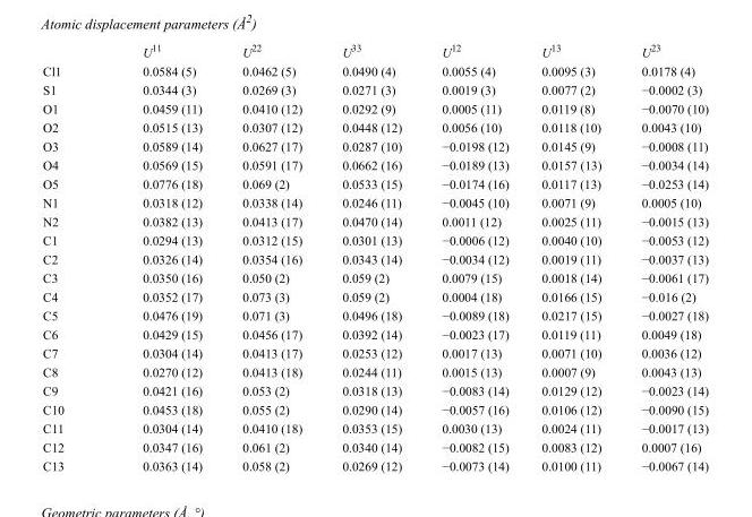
<table><thead><tr><td></td><td>U<sup>11</sup></td><td>U<sup>22</sup></td><td>U<sup>33</sup></td><td>U<sup>12</sup></td><td>U<sup>13</sup></td><td>U<sup>23</sup></td></tr></thead><tbody><tr><td>Cl1</td><td>0.0584 (5)</td><td>0.0462 (5)</td><td>0.0490 (4)</td><td>0.0055 (4)</td><td>0.0095 (3)</td><td>0.0178 (4)</td></tr><tr><td>S1</td><td>0.0344 (3)</td><td>0.0269 (3)</td><td>0.0271 (3)</td><td>0.0019 (3)</td><td>0.0077 (2)</td><td>−0.0002 (3)</td></tr><tr><td>O1</td><td>0.0459 (11)</td><td>0.0410 (12)</td><td>0.0292 (9)</td><td>0.0005 (11)</td><td>0.0119 (8)</td><td>−0.0070 (10)</td></tr><tr><td>O2</td><td>0.0515 (13)</td><td>0.0307 (12)</td><td>0.0448 (12)</td><td>0.0056 (10)</td><td>0.0118 (10)</td><td>0.0043 (10)</td></tr><tr><td>O3</td><td>0.0589 (14)</td><td>0.0627 (17)</td><td>0.0287 (10)</td><td>−0.0198 (12)</td><td>0.0145 (9)</td><td>−0.0008 (11)</td></tr><tr><td>O4</td><td>0.0569 (15)</td><td>0.0591 (17)</td><td>0.0662 (16)</td><td>−0.0189 (13)</td><td>0.0157 (13)</td><td>−0.0034 (14)</td></tr><tr><td>O5</td><td>0.0776 (18)</td><td>0.069 (2)</td><td>0.0533 (15)</td><td>−0.0174 (16)</td><td>0.0117 (13)</td><td>−0.0253 (14)</td></tr><tr><td>N1</td><td>0.0318 (12)</td><td>0.0338 (14)</td><td>0.0246 (11)</td><td>−0.0045 (10)</td><td>0.0071 (9)</td><td>0.0005 (10)</td></tr><tr><td>N2</td><td>0.0382 (13)</td><td>0.0413 (17)</td><td>0.0470 (14)</td><td>0.0011 (12)</td><td>0.0025 (11)</td><td>−0.0015 (13)</td></tr><tr><td>C1</td><td>0.0294 (13)</td><td>0.0312 (15)</td><td>0.0301 (13)</td><td>−0.0006 (12)</td><td>0.0040 (10)</td><td>−0.0053 (12)</td></tr><tr><td>C2</td><td>0.0326 (14)</td><td>0.0354 (16)</td><td>0.0343 (14)</td><td>−0.0034 (12)</td><td>0.0019 (11)</td><td>−0.0037 (13)</td></tr><tr><td>C3</td><td>0.0350 (16)</td><td>0.050 (2)</td><td>0.059 (2)</td><td>0.0079 (15)</td><td>0.0018 (14)</td><td>−0.0061 (17)</td></tr><tr><td>C4</td><td>0.0352 (17)</td><td>0.073 (3)</td><td>0.059 (2)</td><td>0.0004 (18)</td><td>0.0166 (15)</td><td>−0.016 (2)</td></tr><tr><td>C5</td><td>0.0476 (19)</td><td>0.071 (3)</td><td>0.0496 (18)</td><td>−0.0089 (18)</td><td>0.0217 (15)</td><td>−0.0027 (18)</td></tr><tr><td>C6</td><td>0.0429 (15)</td><td>0.0456 (17)</td><td>0.0392 (14)</td><td>−0.0023 (17)</td><td>0.0119 (11)</td><td>0.0049 (18)</td></tr><tr><td>C7</td><td>0.0304 (14)</td><td>0.0413 (17)</td><td>0.0253 (12)</td><td>0.0017 (13)</td><td>0.0071 (10)</td><td>0.0036 (12)</td></tr><tr><td>C8</td><td>0.0270 (12)</td><td>0.0413 (18)</td><td>0.0244 (11)</td><td>0.0015 (13)</td><td>0.0007 (9)</td><td>0.0043 (13)</td></tr><tr><td>C9</td><td>0.0421 (16)</td><td>0.053 (2)</td><td>0.0318 (13)</td><td>−0.0083 (14)</td><td>0.0129 (12)</td><td>−0.0023 (14)</td></tr><tr><td>C10</td><td>0.0453 (18)</td><td>0.055 (2)</td><td>0.0290 (14)</td><td>−0.0057 (16)</td><td>0.0106 (12)</td><td>−0.0090 (15)</td></tr><tr><td>C11</td><td>0.0304 (14)</td><td>0.0410 (18)</td><td>0.0353 (15)</td><td>0.0030 (13)</td><td>0.0024 (11)</td><td>−0.0017 (13)</td></tr><tr><td>C12</td><td>0.0347 (16)</td><td>0.061 (2)</td><td>0.0340 (14)</td><td>−0.0082 (15)</td><td>0.0083 (12)</td><td>0.0007 (16)</td></tr><tr><td>C13</td><td>0.0363 (14)</td><td>0.058 (2)</td><td>0.0269 (12)</td><td>−0.0073 (14)</td><td>0.0100 (11)</td><td>−0.0067 (14)</td></tr></tbody></table>